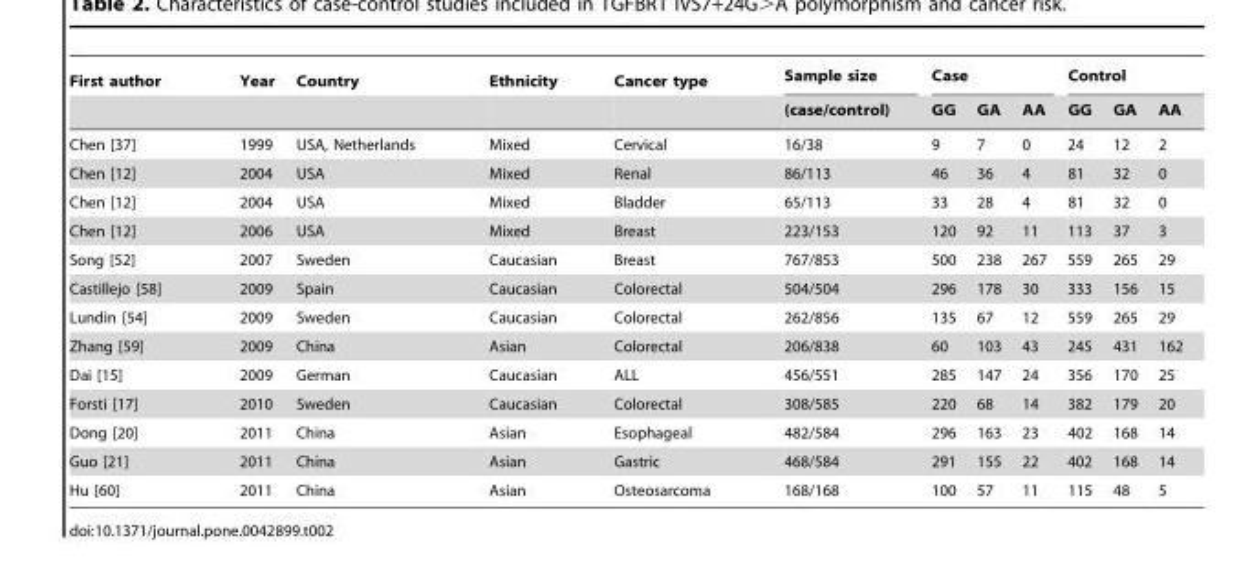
<table><thead><tr><td rowspan="2">First author</td><td rowspan="2">Year</td><td rowspan="2">Country</td><td rowspan="2">Ethnicity</td><td rowspan="2">Cancer type</td><td rowspan="2">Sample size (case/control)</td><td colspan="3">Case</td><td colspan="3">Control</td></tr><tr><td>GG</td><td>GA</td><td>AA</td><td>GG</td><td>GA</td><td>AA</td></tr></thead><tbody><tr><td>Chen [37]</td><td>1999</td><td>USA, Netherlands</td><td>Mixed</td><td>Cervical</td><td>16/38</td><td>9</td><td>7</td><td>0</td><td>24</td><td>12</td><td>2</td></tr><tr><td>Chen [12]</td><td>2004</td><td>USA</td><td>Mixed</td><td>Renal</td><td>86/113</td><td>46</td><td>36</td><td>4</td><td>81</td><td>32</td><td>0</td></tr><tr><td>Chen [12]</td><td>2004</td><td>USA</td><td>Mixed</td><td>Bladder</td><td>65/113</td><td>33</td><td>28</td><td>4</td><td>81</td><td>32</td><td>0</td></tr><tr><td>Chen [12]</td><td>2006</td><td>USA</td><td>Mixed</td><td>Breast</td><td>223/153</td><td>120</td><td>92</td><td>11</td><td>113</td><td>37</td><td>3</td></tr><tr><td>Song [52]</td><td>2007</td><td>Sweden</td><td>Caucasian</td><td>Breast</td><td>767/853</td><td>500</td><td>238</td><td>267</td><td>559</td><td>265</td><td>29</td></tr><tr><td>Castillejo [58]</td><td>2009</td><td>Spain</td><td>Caucasian</td><td>Colorectal</td><td>504/504</td><td>296</td><td>178</td><td>30</td><td>333</td><td>156</td><td>15</td></tr><tr><td>Lundin [54]</td><td>2009</td><td>Sweden</td><td>Caucasian</td><td>Colorectal</td><td>262/856</td><td>135</td><td>67</td><td>12</td><td>559</td><td>265</td><td>29</td></tr><tr><td>Zhang [59]</td><td>2009</td><td>China</td><td>Asian</td><td>Colorectal</td><td>206/838</td><td>60</td><td>103</td><td>43</td><td>245</td><td>431</td><td>162</td></tr><tr><td>Dai [15]</td><td>2009</td><td>German</td><td>Caucasian</td><td>ALL</td><td>456/551</td><td>285</td><td>147</td><td>24</td><td>356</td><td>170</td><td>25</td></tr><tr><td>Forsti [17]</td><td>2010</td><td>Sweden</td><td>Caucasian</td><td>Colorectal</td><td>308/585</td><td>220</td><td>68</td><td>14</td><td>382</td><td>179</td><td>20</td></tr><tr><td>Dong [20]</td><td>2011</td><td>China</td><td>Asian</td><td>Esophageal</td><td>482/584</td><td>296</td><td>163</td><td>23</td><td>402</td><td>168</td><td>14</td></tr><tr><td>Guo [21]</td><td>2011</td><td>China</td><td>Asian</td><td>Gastric</td><td>468/584</td><td>291</td><td>155</td><td>22</td><td>402</td><td>168</td><td>14</td></tr><tr><td>Hu [60]</td><td>2011</td><td>China</td><td>Asian</td><td>Osteosarcoma</td><td>168/168</td><td>100</td><td>57</td><td>11</td><td>115</td><td>48</td><td>5</td></tr></tbody></table>